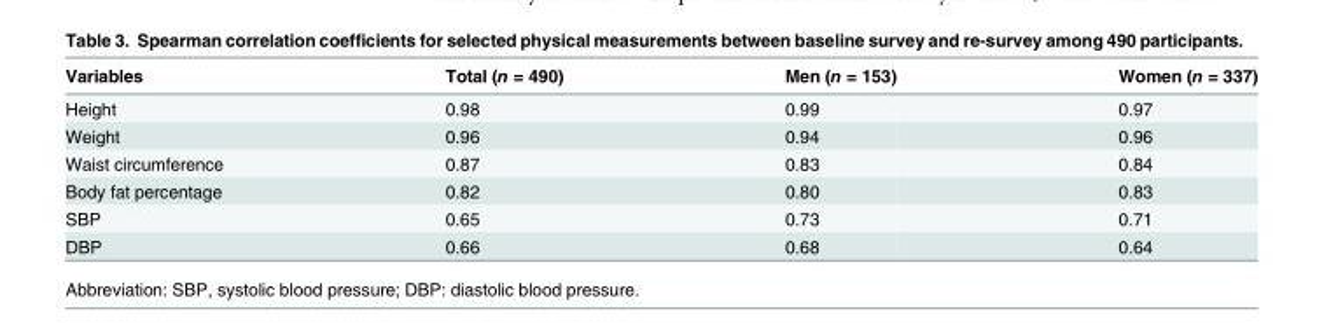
<table><thead><tr><td>Variables</td><td>Total (n = 490)</td><td>Men (n = 153)</td><td>Women (n = 337)</td></tr></thead><tbody><tr><td>Height</td><td>0.98</td><td>0.99</td><td>0.97</td></tr><tr><td>Weight</td><td>0.96</td><td>0.94</td><td>0.96</td></tr><tr><td>Waist circumference</td><td>0.87</td><td>0.83</td><td>0.84</td></tr><tr><td>Body fat percentage</td><td>0.82</td><td>0.80</td><td>0.83</td></tr><tr><td>SBP</td><td>0.65</td><td>0.73</td><td>0.71</td></tr><tr><td>DBP</td><td>0.66</td><td>0.68</td><td>0.64</td></tr></tbody></table>